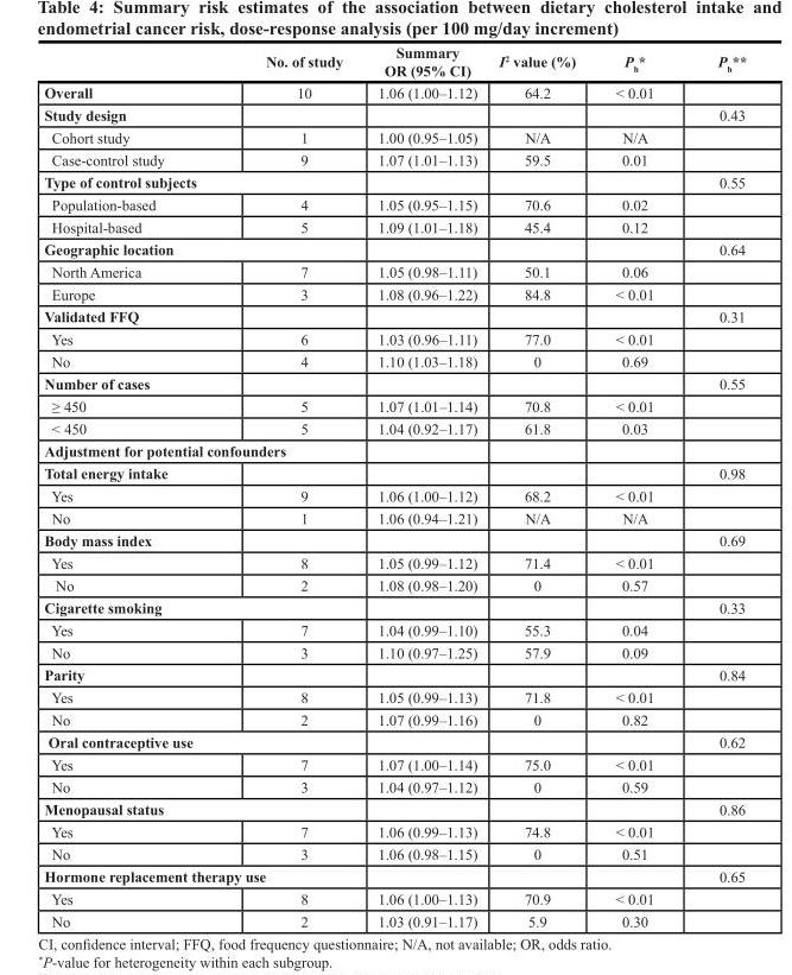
<table><thead><tr><td></td><td>No. of study</td><td>Summary OR (95% CI)</td><td>I<sup>2</sup> value (%)</td><td>P<sub>h</sub>*</td><td>P<sub>h</sub>**</td></tr></thead><tbody><tr><td>Overall</td><td>10</td><td>1.06 (1.00–1.12)</td><td>64.2</td><td>&lt; 0.01</td><td></td></tr><tr><td>Study design</td><td></td><td></td><td></td><td></td><td>0.43</td></tr><tr><td>Cohort study</td><td>1</td><td>1.00 (0.95–1.05)</td><td>N/A</td><td>N/A</td><td></td></tr><tr><td>Case-control study</td><td>9</td><td>1.07 (1.01–1.13)</td><td>59.5</td><td>0.01</td><td></td></tr><tr><td colspan="2">Type of control subjects</td><td></td><td></td><td></td><td>0.55</td></tr><tr><td>Population-based</td><td>4</td><td>1.05 (0.95–1.15)</td><td>70.6</td><td>0.02</td><td></td></tr><tr><td>Hospital-based</td><td>5</td><td>1.09 (1.01–1.18)</td><td>45.4</td><td>0.12</td><td></td></tr><tr><td colspan="2">Geographic location</td><td></td><td></td><td></td><td>0.64</td></tr><tr><td>North America</td><td>7</td><td>1.05 (0.98–1.11)</td><td>50.1</td><td>0.06</td><td></td></tr><tr><td>Europe</td><td>3</td><td>1.08 (0.96–1.22)</td><td>84.8</td><td>&lt; 0.01</td><td></td></tr><tr><td>Validated FFQ</td><td></td><td></td><td></td><td></td><td>0.31</td></tr><tr><td>Yes</td><td>6</td><td>1.03 (0.96–1.11)</td><td>77.0</td><td>&lt; 0.01</td><td></td></tr><tr><td>No</td><td>4</td><td>1.10 (1.03–1.18)</td><td>0</td><td>0.69</td><td></td></tr><tr><td>Number of cases</td><td></td><td></td><td></td><td></td><td>0.55</td></tr><tr><td>≥ 450</td><td>5</td><td>1.07 (1.01–1.14)</td><td>70.8</td><td>&lt; 0.01</td><td></td></tr><tr><td>&lt; 450</td><td>5</td><td>1.04 (0.92–1.17)</td><td>61.8</td><td>0.03</td><td></td></tr><tr><td colspan="6">Adjustment for potential confounders</td></tr><tr><td>Total energy intake</td><td></td><td></td><td></td><td></td><td>0.98</td></tr><tr><td>Yes</td><td>9</td><td>1.06 (1.00–1.12)</td><td>68.2</td><td>&lt; 0.01</td><td></td></tr><tr><td>No</td><td>1</td><td>1.06 (0.94–1.21)</td><td>N/A</td><td>N/A</td><td></td></tr><tr><td>Body mass index</td><td></td><td></td><td></td><td></td><td>0.69</td></tr><tr><td>Yes</td><td>8</td><td>1.05 (0.99–1.12)</td><td>71.4</td><td>&lt; 0.01</td><td></td></tr><tr><td>No</td><td>2</td><td>1.08 (0.98–1.20)</td><td>0</td><td>0.57</td><td></td></tr><tr><td colspan="2">Cigarette smoking</td><td></td><td></td><td></td><td>0.33</td></tr><tr><td>Yes</td><td>7</td><td>1.04 (0.99–1.10)</td><td>55.3</td><td>0.04</td><td></td></tr><tr><td>No</td><td>3</td><td>1.10 (0.97–1.25)</td><td>57.9</td><td>0.09</td><td></td></tr><tr><td>Parity</td><td></td><td></td><td></td><td></td><td>0.84</td></tr><tr><td>Yes</td><td>8</td><td>1.05 (0.99–1.13)</td><td>71.8</td><td>&lt; 0.01</td><td></td></tr><tr><td>No</td><td>2</td><td>1.07 (0.99–1.16)</td><td>0</td><td>0.82</td><td></td></tr><tr><td colspan="2">Oral contraceptive use</td><td></td><td></td><td></td><td>0.62</td></tr><tr><td>Yes</td><td>7</td><td>1.07 (1.00–1.14)</td><td>75.0</td><td>&lt; 0.01</td><td></td></tr><tr><td>No</td><td>3</td><td>1.04 (0.97–1.12)</td><td>0</td><td>0.59</td><td></td></tr><tr><td colspan="2">Menopausal status</td><td></td><td></td><td></td><td>0.86</td></tr><tr><td>Yes</td><td>7</td><td>1.06 (0.99–1.13)</td><td>74.8</td><td>&lt; 0.01</td><td></td></tr><tr><td>No</td><td>3</td><td>1.06 (0.98–1.15)</td><td>0</td><td>0.51</td><td></td></tr><tr><td colspan="2">Hormone replacement therapy use</td><td></td><td></td><td></td><td>0.65</td></tr><tr><td>Yes</td><td>8</td><td>1.06 (1.00–1.13)</td><td>70.9</td><td>&lt; 0.01</td><td></td></tr><tr><td>No</td><td>2</td><td>1.03 (0.91–1.17)</td><td>5.9</td><td>0.30</td><td></td></tr></tbody></table>